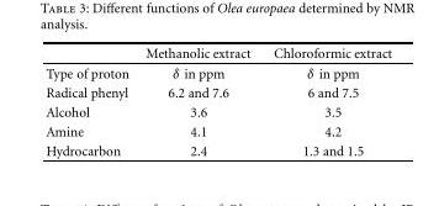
<table><thead><tr><td></td><td>Methanolic extract</td><td>Chloroformic extract</td></tr></thead><tbody><tr><td>Type of proton</td><td>δ in ppm</td><td>δ in ppm</td></tr><tr><td>Radical phenyl</td><td>6.2 and 7.6</td><td>6 and 7.5</td></tr><tr><td>Alcohol</td><td>3.6</td><td>3.5</td></tr><tr><td>Amine</td><td>4.1</td><td>4.2</td></tr><tr><td>Hydrocarbon</td><td>2.4</td><td>1.3 and 1.5</td></tr></tbody></table>